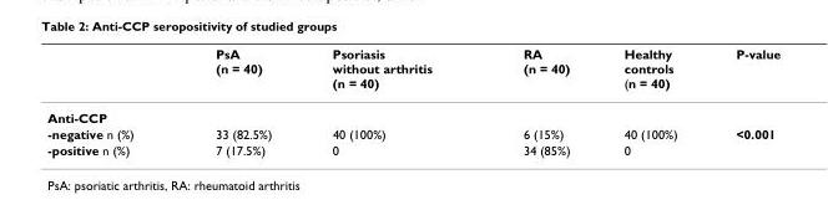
<table><thead><tr><td></td><td>PsA (n = 40)</td><td>Psoriasis without arthritis (n = 40)</td><td>RA (n = 40)</td><td>Healthy controls (n = 40)</td><td>P-value</td></tr></thead><tbody><tr><td colspan="6">Anti-CCP</td></tr><tr><td>-negative n (%)</td><td>33 (82.5%)</td><td>40 (100%)</td><td>6 (15%)</td><td>40 (100%)</td><td>&lt;0.001</td></tr><tr><td>-positive n (%)</td><td>7 (17.5%)</td><td>0</td><td>34 (85%)</td><td>0</td><td></td></tr></tbody></table>